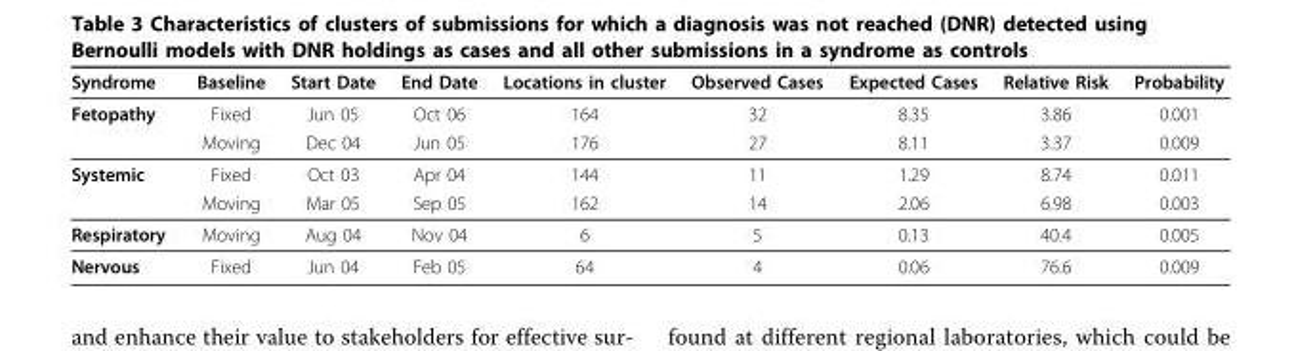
<table><thead><tr><td>Syndrome</td><td>Baseline</td><td>Start Date</td><td>End Date</td><td>Locations in cluster</td><td>Observed Cases</td><td>Expected Cases</td><td>Relative Risk</td><td>Probability</td></tr></thead><tbody><tr><td rowspan="2">Fetopathy</td><td>Fixed</td><td>Jun 05</td><td>Oct 06</td><td>164</td><td>32</td><td>8.35</td><td>3.86</td><td>0.001</td></tr><tr><td>Moving</td><td>Dec 04</td><td>Jun 05</td><td>176</td><td>27</td><td>8.11</td><td>3.37</td><td>0.009</td></tr><tr><td rowspan="2">Systemic</td><td>Fixed</td><td>Oct 03</td><td>Apr 04</td><td>144</td><td>11</td><td>1.29</td><td>8.74</td><td>0.011</td></tr><tr><td>Moving</td><td>Mar 05</td><td>Sep 05</td><td>162</td><td>14</td><td>2.06</td><td>6.98</td><td>0.003</td></tr><tr><td>Respiratory</td><td>Moving</td><td>Aug 04</td><td>Nov 04</td><td>6</td><td>5</td><td>0.13</td><td>40.4</td><td>0.005</td></tr><tr><td>Nervous</td><td>Fixed</td><td>Jun 04</td><td>Feb 05</td><td>64</td><td>4</td><td>0.06</td><td>76.6</td><td>0.009</td></tr></tbody></table>